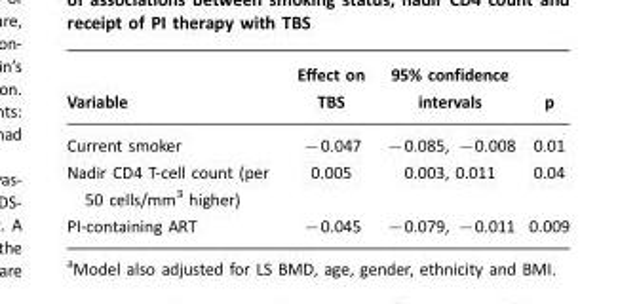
<table><thead><tr><td>Variable</td><td>Effect on TBS</td><td>95% confidence intervals</td><td>p</td></tr></thead><tbody><tr><td>Current smoker</td><td>−0.047</td><td>−0.085, −0.008</td><td>0.01</td></tr><tr><td>Nadir CD4 T-cell count (per 50 cells/mm3 higher)</td><td>0.005</td><td>0.003, 0.011</td><td>0.04</td></tr><tr><td>PI-containing ART</td><td>−0.045</td><td>−0.079, −0.011</td><td>0.009</td></tr></tbody></table>